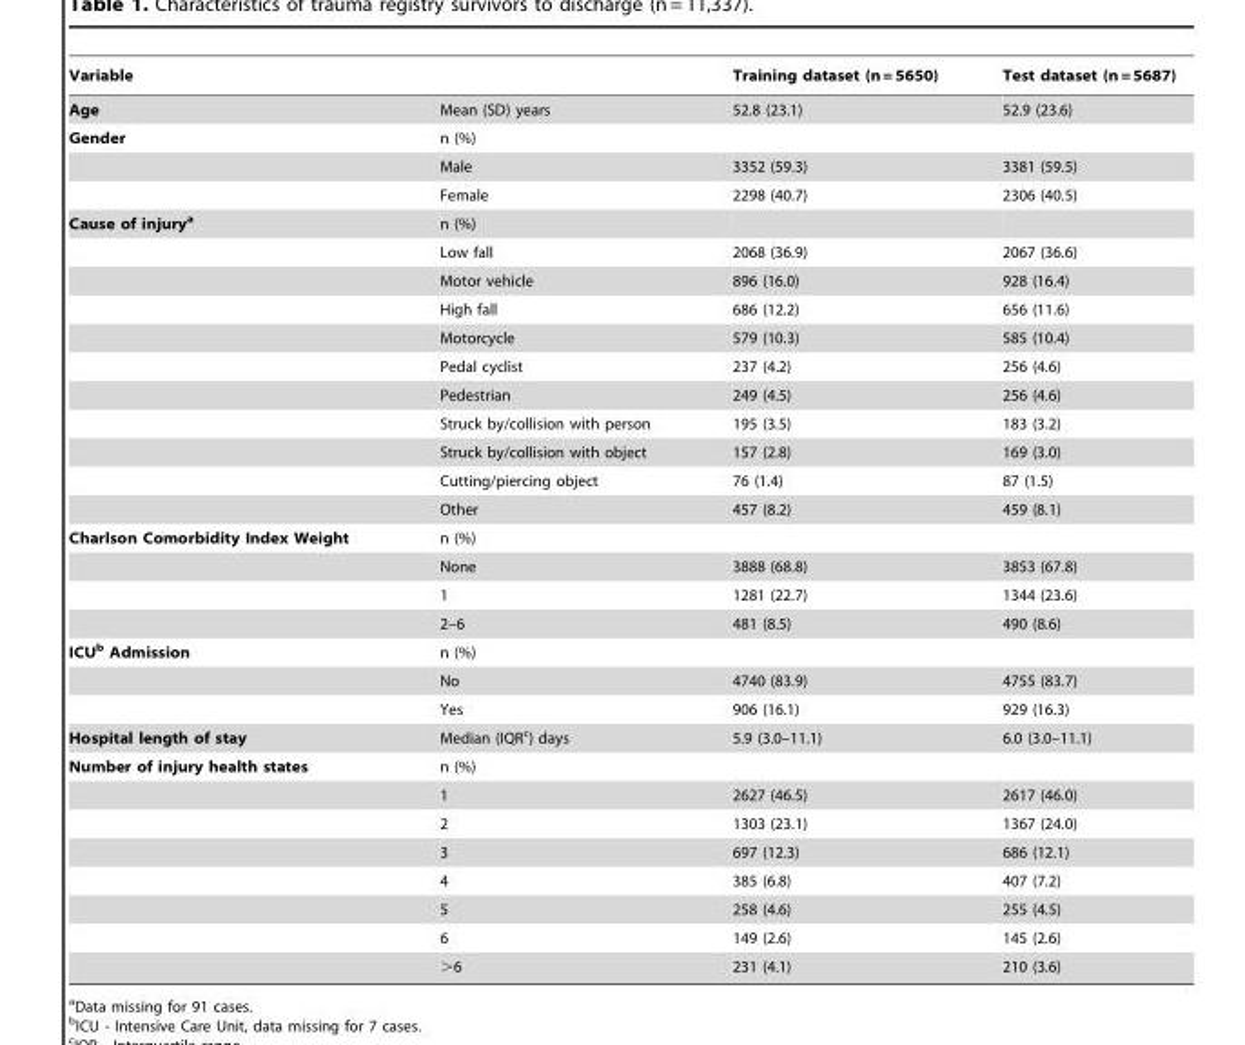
<table><thead><tr><td colspan="2">Variable</td><td rowspan="2">Training dataset (n = 5650) 52.8 (23.1)</td><td rowspan="2">Test dataset (n = 5687) 52.9 (23.6)</td></tr><tr><td>Age</td><td>Mean (SD) years</td></tr></thead><tbody><tr><td rowspan="3">Gender</td><td>n (%)</td><td></td><td></td></tr><tr><td>Male</td><td>3352 (59.3)</td><td>3381 (59.5)</td></tr><tr><td>Female</td><td>2298 (40.7)</td><td>2306 (40.5)</td></tr><tr><td rowspan="11">Cause of injurya</td><td>n (%)</td><td></td><td></td></tr><tr><td>Low fall</td><td>2068 (36.9)</td><td>2067 (36.6)</td></tr><tr><td>Motor vehicle</td><td>896 (16.0)</td><td>928 (16.4)</td></tr><tr><td>High fall</td><td>686 (12.2)</td><td>656 (11.6)</td></tr><tr><td>Motorcycle</td><td>579 (10.3)</td><td>585 (10.4)</td></tr><tr><td>Pedal cyclist</td><td>237 (4.2)</td><td>256 (4.6)</td></tr><tr><td>Pedestrian</td><td>249 (4.5)</td><td>256 (4.6)</td></tr><tr><td>Struck by/collision with person</td><td>195 (3.5)</td><td>183 (3.2)</td></tr><tr><td>Struck by/collision with object</td><td>157 (2.8)</td><td>169 (3.0)</td></tr><tr><td>Cutting/piercing object</td><td>76 (1.4)</td><td>87 (1.5)</td></tr><tr><td>Other</td><td>457 (8.2)</td><td>459 (8.1)</td></tr><tr><td rowspan="4">Charlson Comorbidity Index Weight</td><td>n (%)</td><td></td><td></td></tr><tr><td>None</td><td>3888 (68.8)</td><td>3853 (67.8)</td></tr><tr><td>1</td><td>1281 (22.7)</td><td>1344 (23.6)</td></tr><tr><td>2–6</td><td>481 (8.5)</td><td>490 (8.6)</td></tr><tr><td rowspan="3">ICUb Admission</td><td>n (%)</td><td></td><td></td></tr><tr><td>No</td><td>4740 (83.9)</td><td>4755 (83.7)</td></tr><tr><td>Yes</td><td>906 (16.1)</td><td>929 (16.3)</td></tr><tr><td>Hospital length of stay</td><td>Median (IQR<sup>c</sup>) days</td><td>5.9 (3.0–11.1)</td><td>6.0 (3.0–11.1)</td></tr><tr><td rowspan="8">Number of injury health states</td><td>n (%)</td><td></td><td></td></tr><tr><td>1</td><td>2627 (46.5)</td><td>2617 (46.0)</td></tr><tr><td>2</td><td>1303 (23.1)</td><td>1367 (24.0)</td></tr><tr><td>3</td><td>697 (12.3)</td><td>686 (12.1)</td></tr><tr><td>4</td><td>385 (6.8)</td><td>407 (7.2)</td></tr><tr><td>5</td><td>258 (4.6)</td><td>255 (4.5)</td></tr><tr><td>6</td><td>149 (2.6)</td><td>145 (2.6)</td></tr><tr><td>&gt;6</td><td>231 (4.1)</td><td>210 (3.6)</td></tr></tbody></table>